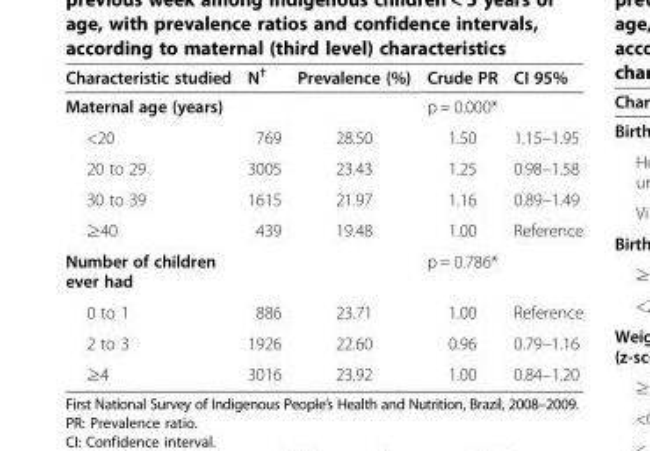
<table><thead><tr><td>Characteristic studied</td><td>N<sup>†</sup></td><td>Prevalence (%)</td><td>Crude PR</td><td>CI 95%</td></tr></thead><tbody><tr><td>Maternal age (years)</td><td></td><td></td><td>p = 0.000*</td><td></td></tr><tr><td>&lt;20</td><td>769</td><td>28.50</td><td>1.50</td><td>1.15–1.95</td></tr><tr><td>20 to 29</td><td>3005</td><td>23.43</td><td>1.25</td><td>0.98–1.58</td></tr><tr><td>30 to 39</td><td>1615</td><td>21.97</td><td>1.16</td><td>0.89–1.49</td></tr><tr><td>≥40</td><td>439</td><td>19.48</td><td>1.00</td><td>Reference</td></tr><tr><td>Number of children ever had</td><td></td><td></td><td>p = 0.786*</td><td></td></tr><tr><td>0 to 1</td><td>886</td><td>23.71</td><td>1.00</td><td>Reference</td></tr><tr><td>2 to 3</td><td>1926</td><td>22.60</td><td>0.96</td><td>0.79–1.16</td></tr><tr><td>≥4</td><td>3016</td><td>23.92</td><td>1.00</td><td>0.84–1.20</td></tr></tbody></table>